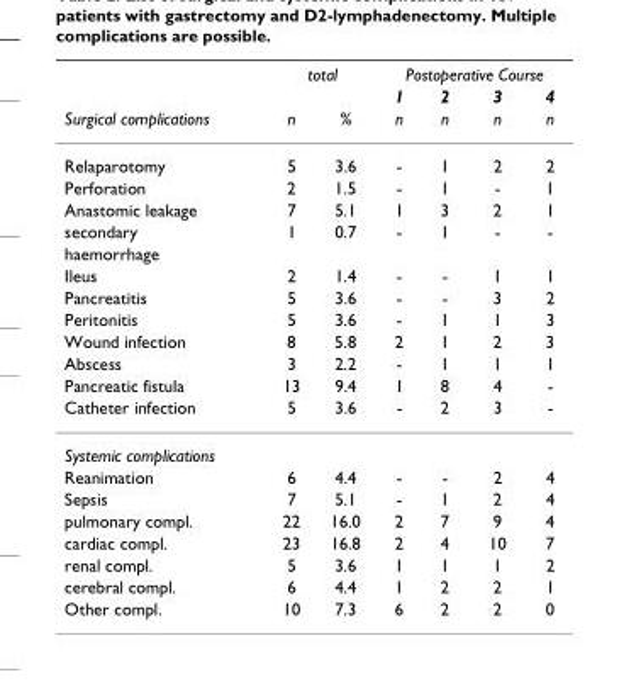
<table><thead><tr><td rowspan="3">Surgical complications</td><td colspan="2">total</td><td colspan="4">Postoperative Course</td></tr><tr><td rowspan="2">n</td><td rowspan="2">%</td><td rowspan="2">1 n</td><td rowspan="2">2 n</td><td rowspan="2">3 n</td><td rowspan="2">4 n</td></tr><tr></tr></thead><tbody><tr><td>Relaparotomy</td><td>5</td><td>3.6</td><td>-</td><td>1</td><td>2</td><td>2</td></tr><tr><td>Perforation</td><td>2</td><td>1.5</td><td>-</td><td>1</td><td>-</td><td>1</td></tr><tr><td>Anastomic leakage</td><td>7</td><td>5.1</td><td>1</td><td>3</td><td>2</td><td>1</td></tr><tr><td>secondary</td><td>1</td><td>0.7</td><td>-</td><td>1</td><td>-</td><td>-</td></tr><tr><td colspan="7">haemorrhage</td></tr><tr><td>Ileus</td><td>2</td><td>1.4</td><td>-</td><td>-</td><td>1</td><td>1</td></tr><tr><td>Pancreatitis</td><td>5</td><td>3.6</td><td>-</td><td>-</td><td>3</td><td>2</td></tr><tr><td>Peritonitis</td><td>5</td><td>3.6</td><td>-</td><td>1</td><td>1</td><td>3</td></tr><tr><td>Wound infection</td><td>8</td><td>5.8</td><td>2</td><td>1</td><td>2</td><td>3</td></tr><tr><td>Abscess</td><td>3</td><td>2.2</td><td>-</td><td>1</td><td>1</td><td>1</td></tr><tr><td>Pancreatic fistula</td><td>13</td><td>9.4</td><td>1</td><td>8</td><td>4</td><td>-</td></tr><tr><td>Catheter infection</td><td>5</td><td>3.6</td><td>-</td><td>2</td><td>3</td><td>-</td></tr><tr><td colspan="7">Systemic complications</td></tr><tr><td>Reanimation</td><td>6</td><td>4.4</td><td>-</td><td>-</td><td>2</td><td>4</td></tr><tr><td>Sepsis</td><td>7</td><td>5.1</td><td>-</td><td>1</td><td>2</td><td>4</td></tr><tr><td>pulmonary compl.</td><td>22</td><td>16.0</td><td>2</td><td>7</td><td>9</td><td>4</td></tr><tr><td>cardiac compl.</td><td>23</td><td>16.8</td><td>2</td><td>4</td><td>10</td><td>7</td></tr><tr><td>renal compl.</td><td>5</td><td>3.6</td><td>1</td><td>1</td><td>1</td><td>2</td></tr><tr><td>cerebral compl.</td><td>6</td><td>4.4</td><td>1</td><td>2</td><td>2</td><td>1</td></tr><tr><td>Other compl.</td><td>10</td><td>7.3</td><td>6</td><td>2</td><td>2</td><td>0</td></tr></tbody></table>